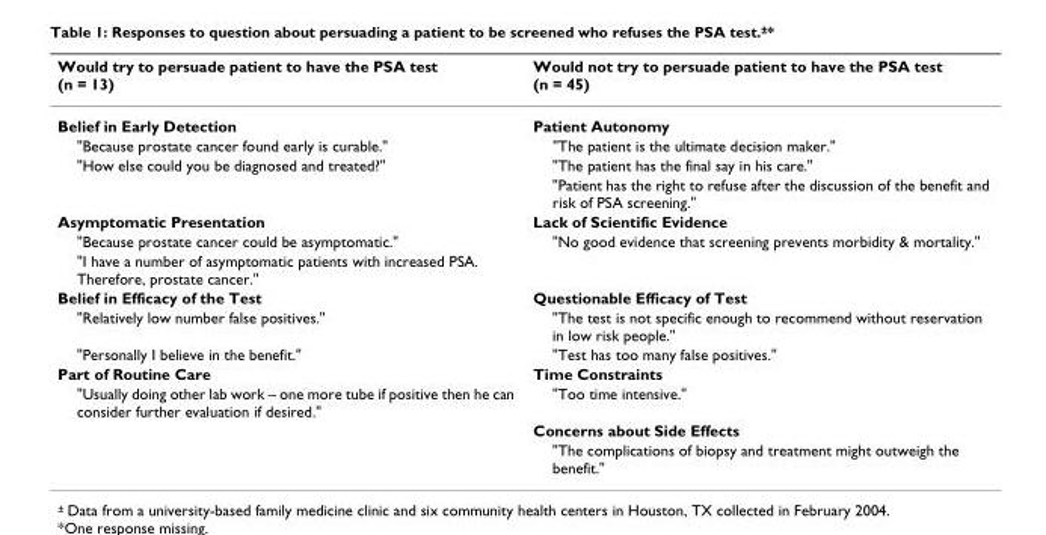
<table><thead><tr><td>Would try to persuade patient to have the PSA test (n = 13)</td><td>Would not try to persuade patient to have the PSA test (n = 45)</td></tr></thead><tbody><tr><td>Belief in Early Detection</td><td>Patient Autonomy</td></tr><tr><td>&quot;Because prostate cancer found early is curable.&quot;</td><td>&quot;The patient is the ultimate decision maker.&quot;</td></tr><tr><td rowspan="2">&quot;How else could you be diagnosed and treated?&quot;</td><td>&quot;The patient has the final say in his care.&quot;</td></tr><tr><td>&quot;Patient has the right to refuse after the discussion of the benefit and risk of PSA screening.&quot;</td></tr><tr><td>Asymptomatic Presentation</td><td>Lack of Scientific Evidence</td></tr><tr><td>&quot;Because prostate cancer could be asymptomatic.&quot;</td><td>&quot;No good evidence that screening prevents morbidity &amp; mortality.&quot;</td></tr><tr><td colspan="2">&quot;I have a number of asymptomatic patients with increased PSA. Therefore, prostate cancer.&quot;</td></tr><tr><td>Belief in Efficacy of the Test</td><td>Questionable Efficacy of Test</td></tr><tr><td>&quot;Relatively low number false positives.&quot;</td><td>&quot;The test is not specific enough to recommend without reservation in low risk people.&quot;</td></tr><tr><td>&quot;Personally I believe in the benefit.&quot;</td><td>&quot;Test has too many false positives.&quot;</td></tr><tr><td>Part of Routine Care</td><td>Time Constraints</td></tr><tr><td rowspan="3">&quot;Usually doing other lab work – one more tube if positive then he can consider further evaluation if desired.&quot;</td><td>&quot;Too time intensive.&quot;</td></tr><tr><td>Concerns about Side Effects</td></tr><tr><td>&quot;The complications of biopsy and treatment might outweigh the benefit.&quot;</td></tr></tbody></table>